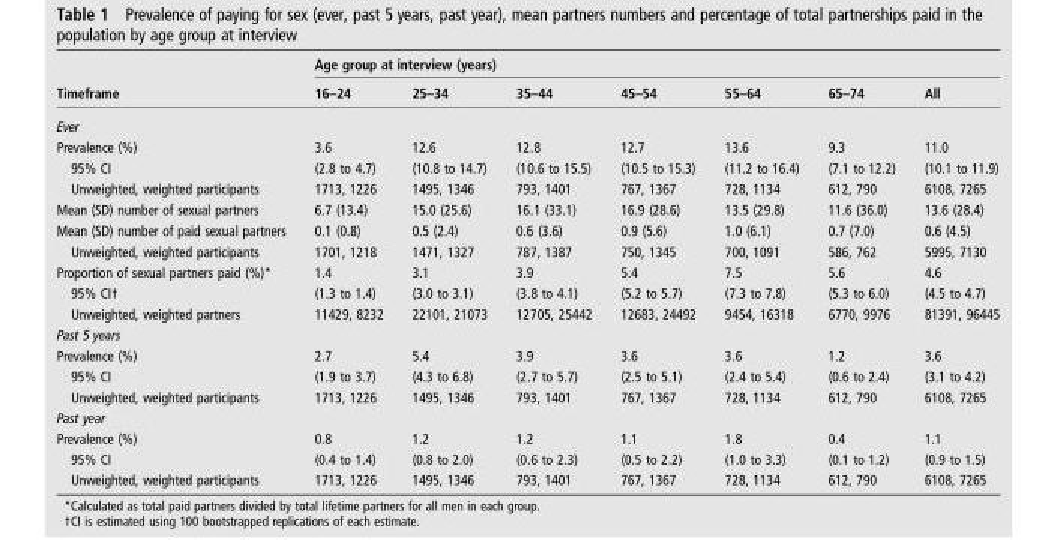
<table><thead><tr><td rowspan="2">Timeframe</td><td colspan="7">Age group at interview (years)</td></tr><tr><td>16–24</td><td>25–34</td><td>35–44</td><td>45–54</td><td>55–64</td><td>65–74</td><td>All</td></tr></thead><tbody><tr><td colspan="8">Ever</td></tr><tr><td>Prevalence (%)</td><td>3.6</td><td>12.6</td><td>12.8</td><td>12.7</td><td>13.6</td><td>9.3</td><td>11.0</td></tr><tr><td>95% CI</td><td>(2.8 to 4.7)</td><td>(10.8 to 14.7)</td><td>(10.6 to 15.5)</td><td>(10.5 to 15.3)</td><td>(11.2 to 16.4)</td><td>(7.1 to 12.2)</td><td>(10.1 to 11.9)</td></tr><tr><td>Unweighted, weighted participants</td><td>1713, 1226</td><td>1495, 1346</td><td>793, 1401</td><td>767, 1367</td><td>728, 1134</td><td>612, 790</td><td>6108, 7265</td></tr><tr><td>Mean (SD) number of sexual partners</td><td>6.7 (13.4)</td><td>15.0 (25.6)</td><td>16.1 (33.1)</td><td>16.9 (28.6)</td><td>13.5 (29.8)</td><td>11.6 (36.0)</td><td>13.6 (28.4)</td></tr><tr><td>Mean (SD) number of paid sexual partners</td><td>0.1 (0.8)</td><td>0.5 (2.4)</td><td>0.6 (3.6)</td><td>0.9 (5.6)</td><td>1.0 (6.1)</td><td>0.7 (7.0)</td><td>0.6 (4.5)</td></tr><tr><td>Unweighted, weighted participants</td><td>1701, 1218</td><td>1471, 1327</td><td>787, 1387</td><td>750, 1345</td><td>700, 1091</td><td>586, 762</td><td>5995, 7130</td></tr><tr><td>Proportion of sexual partners paid (%)*</td><td>1.4</td><td>3.1</td><td>3.9</td><td>5.4</td><td>7.5</td><td>5.6</td><td>4.6</td></tr><tr><td>95% CI†</td><td>(1.3 to 1.4)</td><td>(3.0 to 3.1)</td><td>(3.8 to 4.1)</td><td>(5.2 to 5.7)</td><td>(7.3 to 7.8)</td><td>(5.3 to 6.0)</td><td>(4.5 to 4.7)</td></tr><tr><td>Unweighted, weighted partners</td><td>11429, 8232</td><td>22101, 21073</td><td>12705, 25442</td><td>12683, 24492</td><td>9454, 16318</td><td>6770, 9976</td><td>81391, 96445</td></tr><tr><td colspan="8">Past 5 years</td></tr><tr><td>Prevalence (%)</td><td>2.7</td><td>5.4</td><td>3.9</td><td>3.6</td><td>3.6</td><td>1.2</td><td>3.6</td></tr><tr><td>95% CI</td><td>(1.9 to 3.7)</td><td>(4.3 to 6.8)</td><td>(2.7 to 5.7)</td><td>(2.5 to 5.1)</td><td>(2.4 to 5.4)</td><td>(0.6 to 2.4)</td><td>(3.1 to 4.2)</td></tr><tr><td>Unweighted, weighted participants</td><td>1713, 1226</td><td>1495, 1346</td><td>793, 1401</td><td>767, 1367</td><td>728, 1134</td><td>612, 790</td><td>6108, 7265</td></tr><tr><td colspan="8">Past year</td></tr><tr><td>Prevalence (%)</td><td>0.8</td><td>1.2</td><td>1.2</td><td>1.1</td><td>1.8</td><td>0.4</td><td>1.1</td></tr><tr><td>95% CI</td><td>(0.4 to 1.4)</td><td>(0.8 to 2.0)</td><td>(0.6 to 2.3)</td><td>(0.5 to 2.2)</td><td>(1.0 to 3.3)</td><td>(0.1 to 1.2)</td><td>(0.9 to 1.5)</td></tr><tr><td>Unweighted, weighted participants</td><td>1713, 1226</td><td>1495, 1346</td><td>793, 1401</td><td>767, 1367</td><td>728, 1134</td><td>612, 790</td><td>6108, 7265</td></tr></tbody></table>